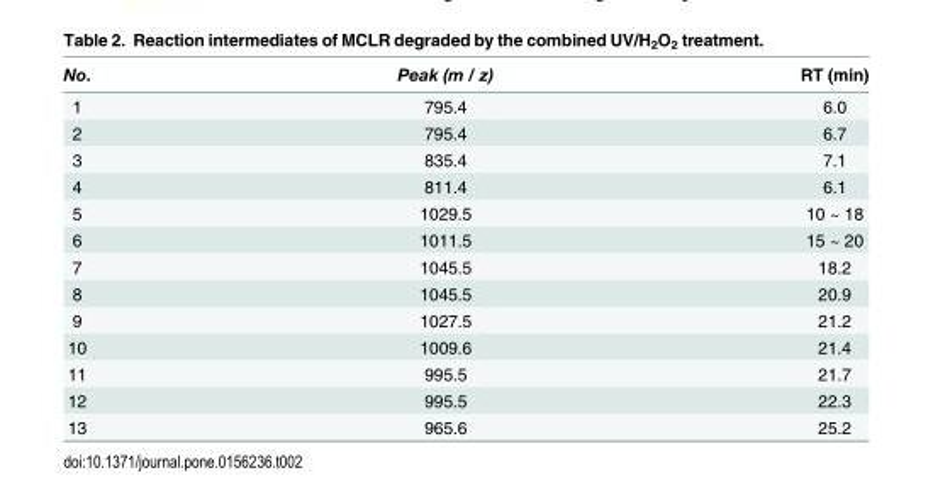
<table><thead><tr><td>No.</td><td>Peak (m / z)</td><td>RT (min)</td></tr></thead><tbody><tr><td>1</td><td>795.4</td><td>6.0</td></tr><tr><td>2</td><td>795.4</td><td>6.7</td></tr><tr><td>3</td><td>835.4</td><td>7.1</td></tr><tr><td>4</td><td>811.4</td><td>6.1</td></tr><tr><td>5</td><td>1029.5</td><td>10 ~ 18</td></tr><tr><td>6</td><td>1011.5</td><td>15 ~ 20</td></tr><tr><td>7</td><td>1045.5</td><td>18.2</td></tr><tr><td>8</td><td>1045.5</td><td>20.9</td></tr><tr><td>9</td><td>1027.5</td><td>21.2</td></tr><tr><td>10</td><td>1009.6</td><td>21.4</td></tr><tr><td>11</td><td>995.5</td><td>21.7</td></tr><tr><td>12</td><td>995.5</td><td>22.3</td></tr><tr><td>13</td><td>965.6</td><td>25.2</td></tr></tbody></table>